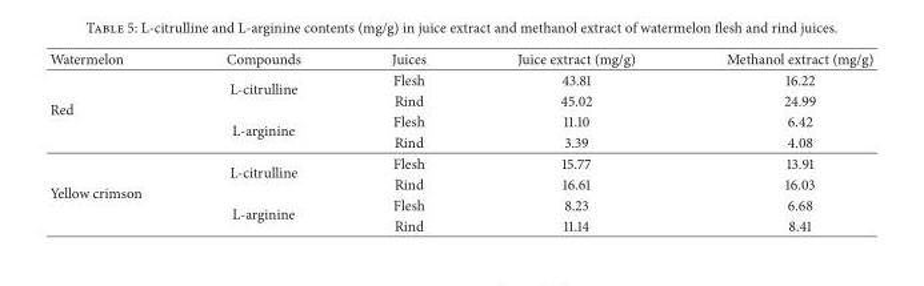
<table><thead><tr><td>Watermelon</td><td>Compounds</td><td>Juices</td><td>Juice extract (mg/g)</td><td>Methanol extract (mg/g)</td></tr></thead><tbody><tr><td rowspan="4">Red</td><td rowspan="2">L-citrulline</td><td>Flesh</td><td>43.81</td><td>16.22</td></tr><tr><td>Rind</td><td>45.02</td><td>24.99</td></tr><tr><td rowspan="2">L-arginine</td><td>Flesh</td><td>11.10</td><td>6.42</td></tr><tr><td>Rind</td><td>3.39</td><td>4.08</td></tr><tr><td rowspan="4">Yellow crimson</td><td rowspan="2">L-citrulline</td><td>Flesh</td><td>15.77</td><td>13.91</td></tr><tr><td>Rind</td><td>16.61</td><td>16.03</td></tr><tr><td rowspan="2">L-arginine</td><td>Flesh</td><td>8.23</td><td>6.68</td></tr><tr><td>Rind</td><td>11.14</td><td>8.41</td></tr></tbody></table>